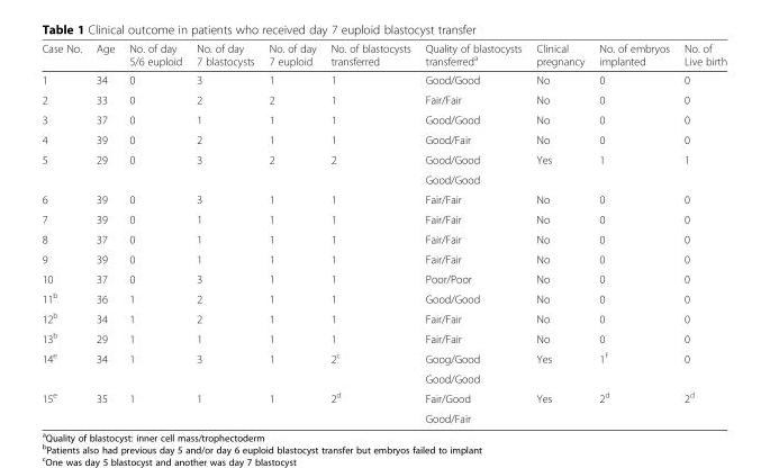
<table><thead><tr><td>Case No.</td><td>Age</td><td>No. of day 5/6 euploid</td><td>No. of day 7 blastocysts</td><td>No. of day 7 euploid</td><td>No. of blastocysts transferred</td><td>Quality of blastocysts transferred<sup>a</sup></td><td>Clinical pregnancy</td><td>No. of embryos implanted</td><td>No. of Live birth</td></tr></thead><tbody><tr><td>1</td><td>34</td><td>0</td><td>3</td><td>1</td><td>1</td><td>Good/Good</td><td>No</td><td>0</td><td>0</td></tr><tr><td>2</td><td>33</td><td>0</td><td>2</td><td>2</td><td>1</td><td>Fair/Fair</td><td>No</td><td>0</td><td>0</td></tr><tr><td>3</td><td>37</td><td>0</td><td>1</td><td>1</td><td>1</td><td>Good/Good</td><td>No</td><td>0</td><td>0</td></tr><tr><td>4</td><td>39</td><td>0</td><td>2</td><td>1</td><td>1</td><td>Good/Fair</td><td>No</td><td>0</td><td>0</td></tr><tr><td rowspan="2">5</td><td rowspan="2">29</td><td rowspan="2">0</td><td rowspan="2">3</td><td rowspan="2">2</td><td rowspan="2">2</td><td>Good/Good</td><td rowspan="2">Yes</td><td rowspan="2">1</td><td rowspan="2">1</td></tr><tr><td>Good/Good</td></tr><tr><td>6</td><td>39</td><td>0</td><td>3</td><td>1</td><td>1</td><td>Fair/Fair</td><td>No</td><td>0</td><td>0</td></tr><tr><td>7</td><td>39</td><td>0</td><td>1</td><td>1</td><td>1</td><td>Fair/Fair</td><td>No</td><td>0</td><td>0</td></tr><tr><td>8</td><td>37</td><td>0</td><td>1</td><td>1</td><td>1</td><td>Fair/Fair</td><td>No</td><td>0</td><td>0</td></tr><tr><td>9</td><td>39</td><td>0</td><td>1</td><td>1</td><td>1</td><td>Fair/Fair</td><td>No</td><td>0</td><td>0</td></tr><tr><td>10</td><td>37</td><td>0</td><td>3</td><td>1</td><td>1</td><td>Poor/Poor</td><td>No</td><td>0</td><td>0</td></tr><tr><td>11<sup>b</sup></td><td>36</td><td>1</td><td>2</td><td>1</td><td>1</td><td>Good/Good</td><td>No</td><td>0</td><td>0</td></tr><tr><td>12<sup>b</sup></td><td>34</td><td>1</td><td>2</td><td>1</td><td>1</td><td>Fair/Fair</td><td>No</td><td>0</td><td>0</td></tr><tr><td>13<sup>b</sup></td><td>29</td><td>1</td><td>1</td><td>1</td><td>1</td><td>Fair/Fair</td><td>No</td><td>0</td><td>0</td></tr><tr><td rowspan="2">14<sup>e</sup></td><td rowspan="2">34</td><td rowspan="2">1</td><td rowspan="2">3</td><td rowspan="2">1</td><td rowspan="2">2<sup>c</sup></td><td>Goog/Good</td><td rowspan="2">Yes</td><td rowspan="2">1<sup>f</sup></td><td rowspan="2">0</td></tr><tr><td>Good/Good</td></tr><tr><td rowspan="2">15<sup>e</sup></td><td rowspan="2">35</td><td rowspan="2">1</td><td rowspan="2">1</td><td rowspan="2">1</td><td rowspan="2">2<sup>d</sup></td><td>Fair/Good</td><td rowspan="2">Yes</td><td rowspan="2">2<sup>d</sup></td><td rowspan="2">2<sup>d</sup></td></tr><tr><td>Good/Fair</td></tr></tbody></table>